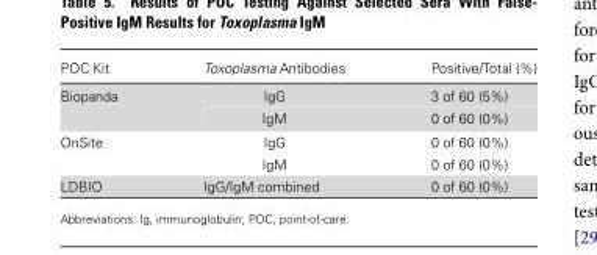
<table><thead><tr><td>POC Kit</td><td>Toxoplasma Antibodies</td><td>Positive/Total (%)</td></tr></thead><tbody><tr><td rowspan="2">Biopanda</td><td>IgG</td><td>3 of 60 (5%)</td></tr><tr><td>IgM</td><td>0 of 60 (0%)</td></tr><tr><td rowspan="2">OnSite</td><td>IgG</td><td>0 of 60 (0%)</td></tr><tr><td>IgM</td><td>0 of 60 (0%)</td></tr><tr><td>LDBIO</td><td>IgG/IgM combined</td><td>0 of 60 (0%)</td></tr></tbody></table>